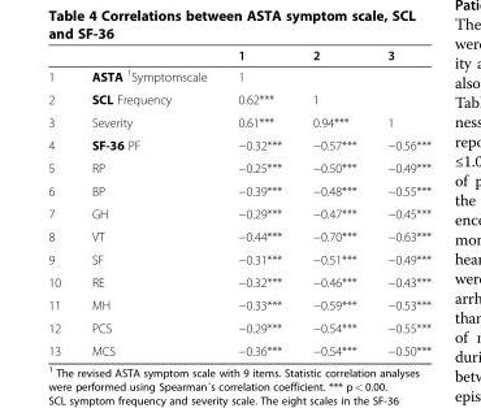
<table><thead><tr><td></td><td></td><td>1</td><td>2</td><td>3</td></tr></thead><tbody><tr><td>1</td><td>ASTA <sup>1</sup>Symptomscale</td><td>1</td><td></td><td></td></tr><tr><td>2</td><td>SCL Frequency</td><td>0.62***</td><td>1</td><td></td></tr><tr><td>3</td><td>Severity</td><td>0.61***</td><td>0.94***</td><td>1</td></tr><tr><td>4</td><td>SF-36 PF</td><td>−0.32***</td><td>−0.57***</td><td>−0.56***</td></tr><tr><td>5</td><td>RP</td><td>−0.25***</td><td>−0.50***</td><td>−0.49***</td></tr><tr><td>6</td><td>BP</td><td>−0.39***</td><td>−0.48***</td><td>−0.55***</td></tr><tr><td>7</td><td>GH</td><td>−0.29***</td><td>−0.47***</td><td>−0.45***</td></tr><tr><td>8</td><td>VT</td><td>−0.44***</td><td>−0.70***</td><td>−0.63***</td></tr><tr><td>9</td><td>SF</td><td>−0.31***</td><td>−0.51***</td><td>−0.49***</td></tr><tr><td>10</td><td>RE</td><td>−0.32***</td><td>−0.46***</td><td>−0.43***</td></tr><tr><td>11</td><td>MH</td><td>−0.33***</td><td>−0.59***</td><td>−0.53***</td></tr><tr><td>12</td><td>PCS</td><td>−0.29***</td><td>−0.54***</td><td>−0.55***</td></tr><tr><td>13</td><td>MCS</td><td>−0.36***</td><td>−0.54***</td><td>−0.50***</td></tr></tbody></table>